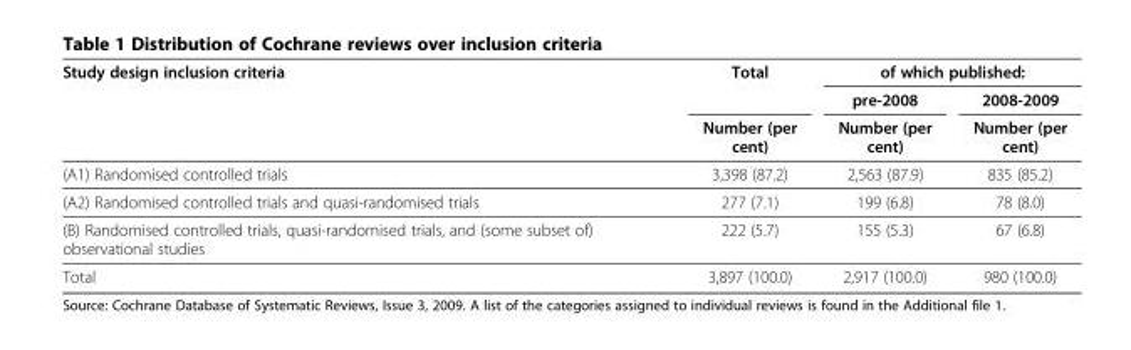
<table><thead><tr><td rowspan="3">Study design inclusion criteria</td><td rowspan="3">Total Number (per cent)</td><td colspan="2">of which published:</td></tr><tr><td rowspan="2">pre-2008 Number (per cent)</td><td rowspan="2">2008-2009 Number (per cent)</td></tr><tr></tr></thead><tbody><tr><td>(A1) Randomised controlled trials</td><td>3,398 (87.2)</td><td>2,563 (87.9)</td><td>835 (85.2)</td></tr><tr><td>(A2) Randomised controlled trials and quasi-randomised trials</td><td>277 (7.1)</td><td>199 (6.8)</td><td>78 (8.0)</td></tr><tr><td>(B) Randomised controlled trials, quasi-randomised trials, and (some subset of) observational studies</td><td>222 (5.7)</td><td>155 (5.3)</td><td>67 (6.8)</td></tr><tr><td>Total</td><td>3,897 (100.0)</td><td>2,917 (100.0)</td><td>980 (100.0)</td></tr></tbody></table>